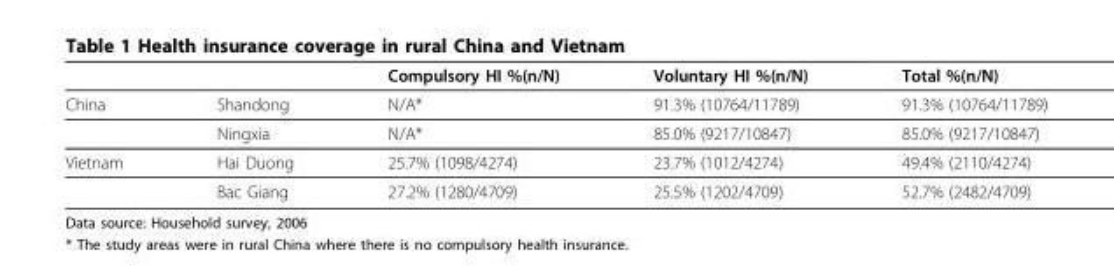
<table><thead><tr><td></td><td></td><td>Compulsory HI %(n/N)</td><td>Voluntary HI %(n/N)</td><td>Total %(n/N)</td></tr></thead><tbody><tr><td rowspan="2">China</td><td>Shandong</td><td>N/A*</td><td>91.3% (10764/11789)</td><td>91.3% (10764/11789)</td></tr><tr><td>Ningxia</td><td>N/A*</td><td>85.0% (9217/10847)</td><td>85.0% (9217/10847)</td></tr><tr><td rowspan="2">Vietnam</td><td>Hai Duong</td><td>25.7% (1098/4274)</td><td>23.7% (1012/4274)</td><td>49.4% (2110/4274)</td></tr><tr><td>Bac Giang</td><td>27.2% (1280/4709)</td><td>25.5% (1202/4709)</td><td>52.7% (2482/4709)</td></tr></tbody></table>